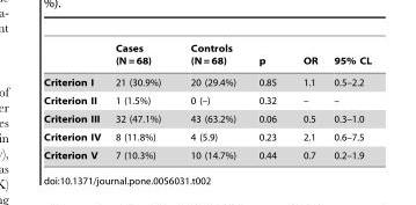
<table><thead><tr><td></td><td>Cases (N = 68)</td><td>Controls (N = 68)</td><td>p</td><td>OR</td><td>95% CL</td></tr></thead><tbody><tr><td>Criterion I</td><td>21 (30.9%)</td><td>20 (29.4%)</td><td>0.85</td><td>1.1</td><td>0.5–2.2</td></tr><tr><td>Criterion II</td><td>1 (1.5%)</td><td>0 (–)</td><td>0.32</td><td>–</td><td>–</td></tr><tr><td>Criterion III</td><td>32 (47.1%)</td><td>43 (63.2%)</td><td>0.06</td><td>0.5</td><td>0.3–1.0</td></tr><tr><td>Criterion IV</td><td>8 (11.8%)</td><td>4 (5.9)</td><td>0.23</td><td>2.1</td><td>0.6–7.5</td></tr><tr><td>Criterion V</td><td>7 (10.3%)</td><td>10 (14.7%)</td><td>0.44</td><td>0.7</td><td>0.2–1.9</td></tr></tbody></table>